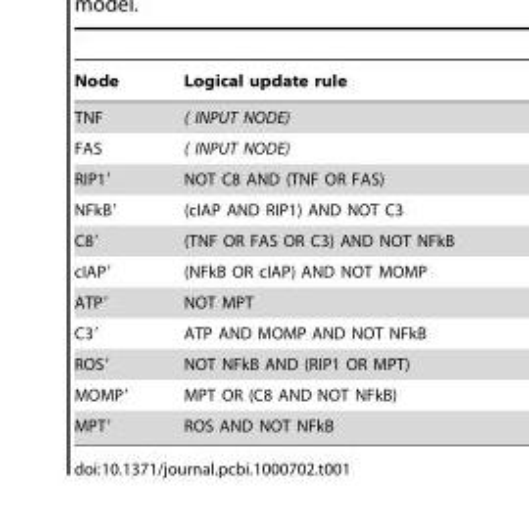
<table><thead><tr><td>Node</td><td>Logical update rule</td></tr></thead><tbody><tr><td>TNF</td><td>( INPUT NODE)</td></tr><tr><td>FAS</td><td>( INPUT NODE)</td></tr><tr><td>RIP1′</td><td>NOT C8 AND (TNF OR FAS)</td></tr><tr><td>NFkB′</td><td>(cIAP AND RIP1) AND NOT C3</td></tr><tr><td>C8′</td><td>(TNF OR FAS OR C3) AND NOT NFkB</td></tr><tr><td>cIAP′</td><td>(NFkB OR cIAP) AND NOT MOMP</td></tr><tr><td>ATP′</td><td>NOT MPT</td></tr><tr><td>C3′</td><td>ATP AND MOMP AND NOT NFkB</td></tr><tr><td>ROS′</td><td>NOT NFkB AND (RIP1 OR MPT)</td></tr><tr><td>MOMP′</td><td>MPT OR (C8 AND NOT NFkB)</td></tr><tr><td>MPT′</td><td>ROS AND NOT NFkB</td></tr></tbody></table>